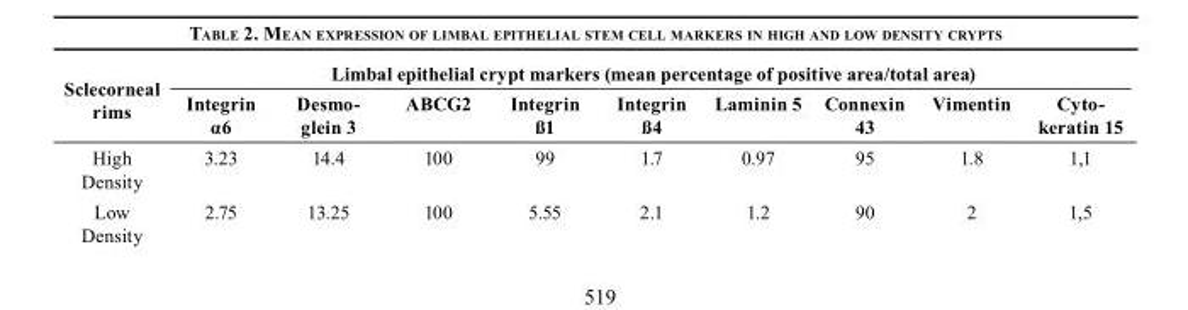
<table><thead><tr><td rowspan="2">Sclecorneal rims</td><td colspan="9">Limbal epithelial crypt markers (mean percentage of positive area/total area)</td></tr><tr><td>Integrin α6</td><td>Desmo- glein 3</td><td>ABCG2</td><td>Integrin ß1</td><td>Integrin ß4</td><td>Laminin 5</td><td>Connexin 43</td><td>Vimentin</td><td>Cyto- keratin 15</td></tr></thead><tbody><tr><td>High Density</td><td>3.23</td><td>14.4</td><td>100</td><td>99</td><td>1.7</td><td>0.97</td><td>95</td><td>1.8</td><td>1,1</td></tr><tr><td>Low Density</td><td>2.75</td><td>13.25</td><td>100</td><td>5.55</td><td>2.1</td><td>1.2</td><td>90</td><td>2</td><td>1,5</td></tr></tbody></table>